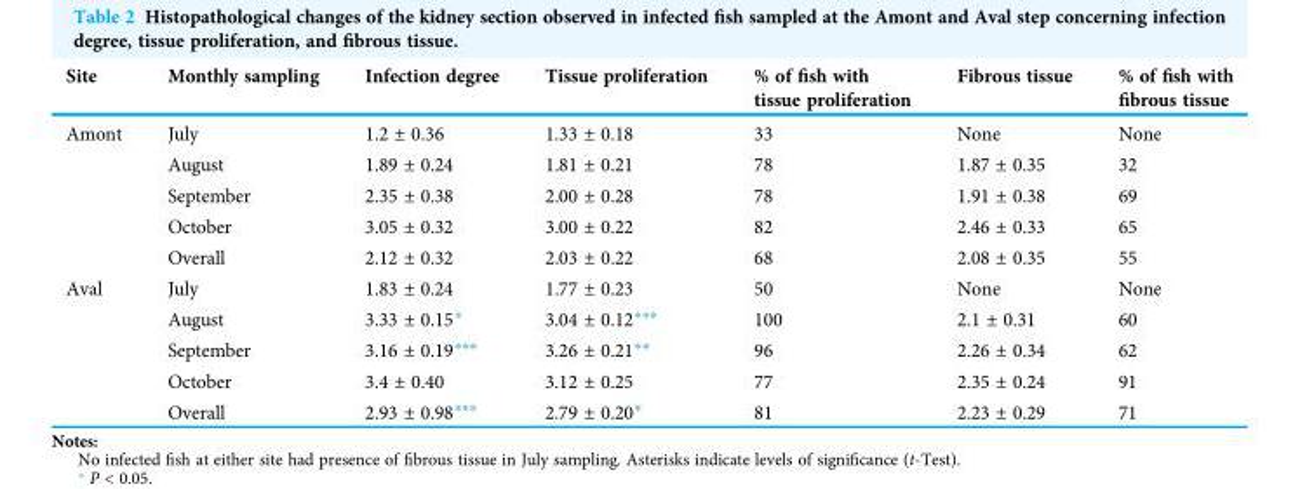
<table><thead><tr><td>Site</td><td>Monthly sampling</td><td>Infection degree</td><td>Tissue proliferation</td><td>% of fish with tissue proliferation</td><td>Fibrous tissue</td><td>% of fish with fibrous tissue</td></tr></thead><tbody><tr><td rowspan="5">Amont</td><td>July</td><td>1.2 ± 0.36</td><td>1.33 ± 0.18</td><td>33</td><td>None</td><td>None</td></tr><tr><td>August</td><td>1.89 ± 0.24</td><td>1.81 ± 0.21</td><td>78</td><td>1.87 ± 0.35</td><td>32</td></tr><tr><td>September</td><td>2.35 ± 0.38</td><td>2.00 ± 0.28</td><td>78</td><td>1.91 ± 0.38</td><td>69</td></tr><tr><td>October</td><td>3.05 ± 0.32</td><td>3.00 ± 0.22</td><td>82</td><td>2.46 ± 0.33</td><td>65</td></tr><tr><td>Overall</td><td>2.12 ± 0.32</td><td>2.03 ± 0.22</td><td>68</td><td>2.08 ± 0.35</td><td>55</td></tr><tr><td rowspan="5">Aval</td><td>July</td><td>1.83 ± 0.24</td><td>1.77 ± 0.23</td><td>50</td><td>None</td><td>None</td></tr><tr><td>August</td><td>3.33 ± 0.15*</td><td>3.04 ± 0.12***</td><td>100</td><td>2.1 ± 0.31</td><td>60</td></tr><tr><td>September</td><td>3.16 ± 0.19***</td><td>3.26 ± 0.21**</td><td>96</td><td>2.26 ± 0.34</td><td>62</td></tr><tr><td>October</td><td>3.4 ± 0.40</td><td>3.12 ± 0.25</td><td>77</td><td>2.35 ± 0.24</td><td>91</td></tr><tr><td>Overall</td><td>2.93 ± 0.98***</td><td>2.79 ± 0.20*</td><td>81</td><td>2.23 ± 0.29</td><td>71</td></tr></tbody></table>